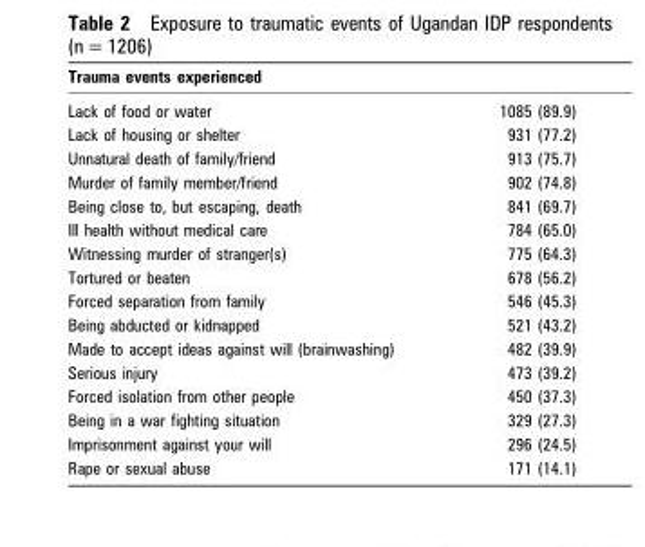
<table><thead><tr><td>Trauma events experienced</td><td></td></tr></thead><tbody><tr><td>Lack of food or water</td><td>1085 (89.9)</td></tr><tr><td>Lack of housing or shelter</td><td>931 (77.2)</td></tr><tr><td>Unnatural death of family/friend</td><td>913 (75.7)</td></tr><tr><td>Murder of family member/friend</td><td>902 (74.8)</td></tr><tr><td>Being close to, but escaping, death</td><td>841 (69.7)</td></tr><tr><td>Ill health without medical care</td><td>784 (65.0)</td></tr><tr><td>Witnessing murder of stranger(s)</td><td>775 (64.3)</td></tr><tr><td>Tortured or beaten</td><td>678 (56.2)</td></tr><tr><td>Forced separation from family</td><td>546 (45.3)</td></tr><tr><td>Being abducted or kidnapped</td><td>521 (43.2)</td></tr><tr><td>Made to accept ideas against will (brainwashing)</td><td>482 (39.9)</td></tr><tr><td>Serious injury</td><td>473 (39.2)</td></tr><tr><td>Forced isolation from other people</td><td>450 (37.3)</td></tr><tr><td>Being in a war fighting situation</td><td>329 (27.3)</td></tr><tr><td>Imprisonment against your will</td><td>296 (24.5)</td></tr><tr><td>Rape or sexual abuse</td><td>171 (14.1)</td></tr></tbody></table>